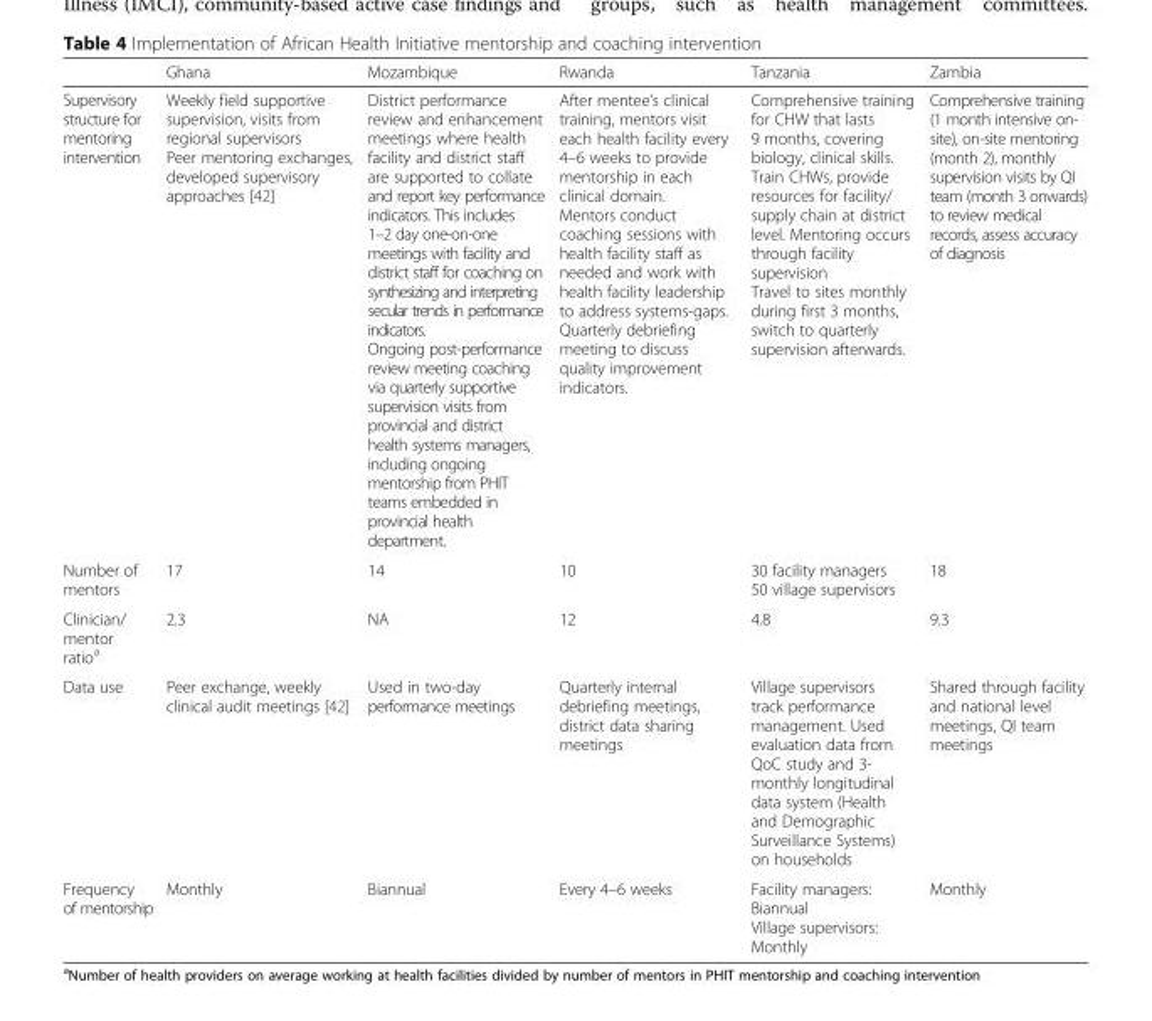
<table><thead><tr><td></td><td>Ghana</td><td>Mozambique</td><td>Rwanda</td><td>Tanzania</td><td>Zambia</td></tr></thead><tbody><tr><td>Supervisory structure for mentoring intervention</td><td>Weekly field supportive supervision, visits from regional supervisors Peer mentoring exchanges, developed supervisory approaches [42]</td><td>District performance review and enhancement meetings where health facility and district staff are supported to collate and report key performance indicators. This includes 1–2 day one-on-one meetings with facility and district staff for coaching on synthesizing and interpreting secular trends in performance indicators. Ongoing post-performance review meeting coaching via quarterly supportive supervision visits from provincial and district health systems managers, including ongoing mentorship from PHIT teams embedded in provincial health department.</td><td>After mentee’s clinical training, mentors visit each health facility every 4–6 weeks to provide mentorship in each clinical domain. Mentors conduct coaching sessions with health facility staff as needed and work with health facility leadership to address systems-gaps. Quarterly debriefing meeting to discuss quality improvement indicators.</td><td>Comprehensive training for CHW that lasts 9 months, covering biology, clinical skills. Train CHWs, provide resources for facility/ supply chain at district level. Mentoring occurs through facility supervision Travel to sites monthly during first 3 months, switch to quarterly supervision afterwards.</td><td>Comprehensive training (1 month intensive on- site), on-site mentoring (month 2), monthly supervision visits by QI team (month 3 onwards) to review medical records, assess accuracy of diagnosis</td></tr><tr><td>Number of mentors</td><td>17</td><td>14</td><td>10</td><td>30 facility managers 50 village supervisors</td><td>18</td></tr><tr><td>Clinician/ mentor ratio<sup>a</sup></td><td>2.3</td><td>NA</td><td>12</td><td>4.8</td><td>9.3</td></tr><tr><td>Data use</td><td>Peer exchange, weekly clinical audit meetings [42]</td><td>Used in two-day performance meetings</td><td>Quarterly internal debriefing meetings, district data sharing meetings</td><td>Village supervisors track performance management. Used evaluation data from QoC study and 3- monthly longitudinal data system (Health and Demographic Surveillance Systems) on households</td><td>Shared through facility and national level meetings, QI team meetings</td></tr><tr><td>Frequency of mentorship</td><td>Monthly</td><td>Biannual</td><td>Every 4–6 weeks</td><td>Facility managers: Biannual Village supervisors: Monthly</td><td>Monthly</td></tr></tbody></table>